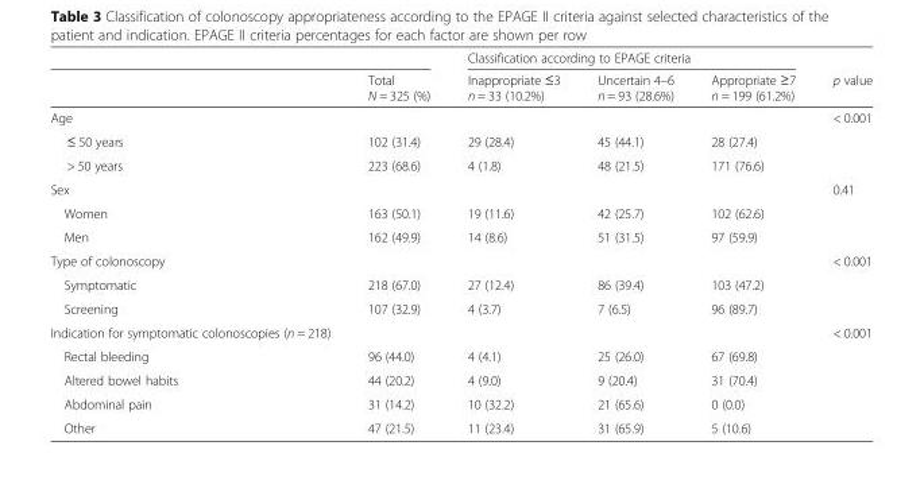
<table><thead><tr><td rowspan="2"></td><td rowspan="2">Total N = 325 (%)</td><td colspan="3">Classification according to EPAGE criteria</td><td rowspan="2">p value</td></tr><tr><td>Inappropriate ≤3 n = 33 (10.2%)</td><td>Uncertain 4–6 n = 93 (28.6%)</td><td>Appropriate ≥7 n = 199 (61.2%)</td></tr></thead><tbody><tr><td>Age</td><td></td><td></td><td></td><td></td><td>&lt; 0.001</td></tr><tr><td>≤ 50 years</td><td>102 (31.4)</td><td>29 (28.4)</td><td>45 (44.1)</td><td>28 (27.4)</td><td></td></tr><tr><td>&gt; 50 years</td><td>223 (68.6)</td><td>4 (1.8)</td><td>48 (21.5)</td><td>171 (76.6)</td><td></td></tr><tr><td>Sex</td><td></td><td></td><td></td><td></td><td>0.41</td></tr><tr><td>Women</td><td>163 (50.1)</td><td>19 (11.6)</td><td>42 (25.7)</td><td>102 (62.6)</td><td></td></tr><tr><td>Men</td><td>162 (49.9)</td><td>14 (8.6)</td><td>51 (31.5)</td><td>97 (59.9)</td><td></td></tr><tr><td>Type of colonoscopy</td><td></td><td></td><td></td><td></td><td>&lt; 0.001</td></tr><tr><td>Symptomatic</td><td>218 (67.0)</td><td>27 (12.4)</td><td>86 (39.4)</td><td>103 (47.2)</td><td></td></tr><tr><td>Screening</td><td>107 (32.9)</td><td>4 (3.7)</td><td>7 (6.5)</td><td>96 (89.7)</td><td></td></tr><tr><td>Indication for symptomatic colonoscopies (n = 218)</td><td></td><td></td><td></td><td></td><td>&lt; 0.001</td></tr><tr><td>Rectal bleeding</td><td>96 (44.0)</td><td>4 (4.1)</td><td>25 (26.0)</td><td>67 (69.8)</td><td></td></tr><tr><td>Altered bowel habits</td><td>44 (20.2)</td><td>4 (9.0)</td><td>9 (20.4)</td><td>31 (70.4)</td><td></td></tr><tr><td>Abdominal pain</td><td>31 (14.2)</td><td>10 (32.2)</td><td>21 (65.6)</td><td>0 (0.0)</td><td></td></tr><tr><td>Other</td><td>47 (21.5)</td><td>11 (23.4)</td><td>31 (65.9)</td><td>5 (10.6)</td><td></td></tr></tbody></table>